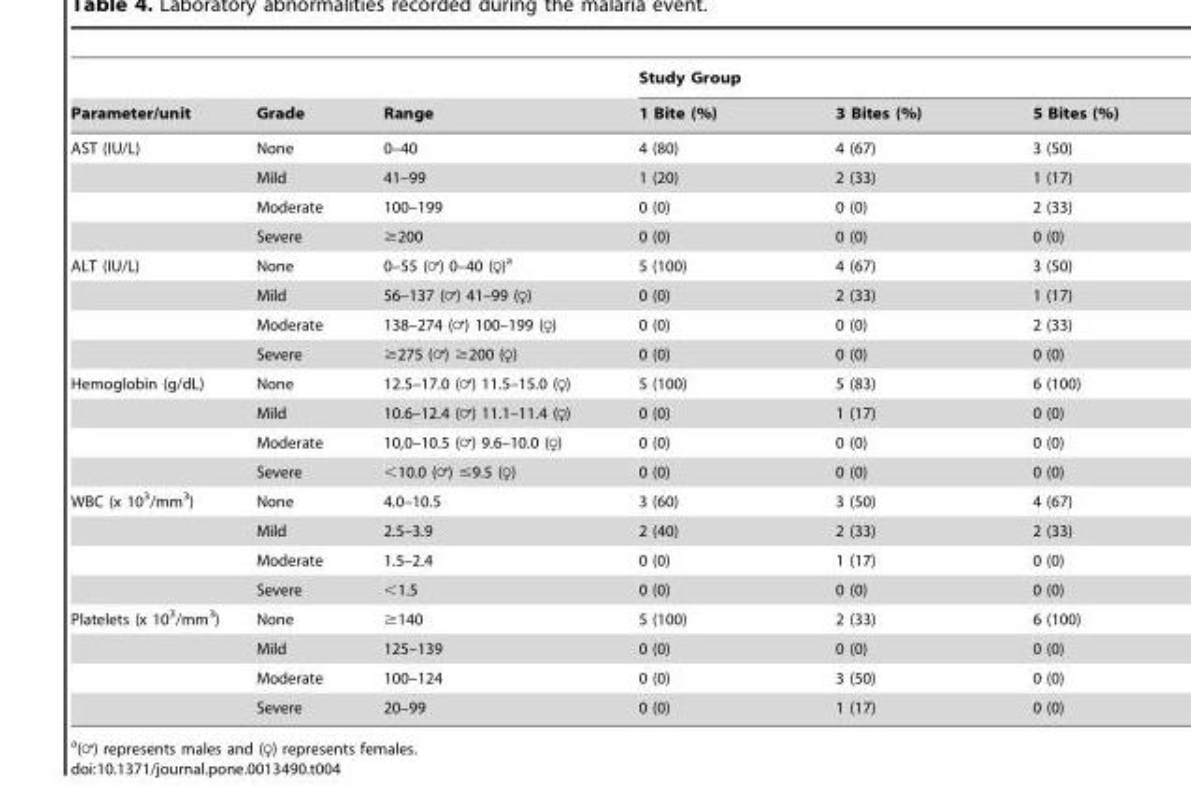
<table><thead><tr><td rowspan="2">Parameter/unit</td><td rowspan="2">Grade</td><td rowspan="2">Range</td><td colspan="3">Study Group</td></tr><tr><td>1 Bite (%)</td><td>3 Bites (%)</td><td>5 Bites (%)</td></tr></thead><tbody><tr><td rowspan="4">AST (IU/L)</td><td>None</td><td>0–40</td><td>4 (80)</td><td>4 (67)</td><td>3 (50)</td></tr><tr><td>Mild</td><td>41–99</td><td>1 (20)</td><td>2 (33)</td><td>1 (17)</td></tr><tr><td>Moderate</td><td>100–199</td><td>0 (0)</td><td>0 (0)</td><td>2 (33)</td></tr><tr><td>Severe</td><td>≥200</td><td>0 (0)</td><td>0 (0)</td><td>0 (0)</td></tr><tr><td rowspan="4">ALT (IU/L)</td><td>None</td><td>0–55 (=) 0–40 (R)a</td><td>5 (100)</td><td>4 (67)</td><td>3 (50)</td></tr><tr><td>Mild</td><td>56–137 (=) 41–99 (R)</td><td>0 (0)</td><td>2 (33)</td><td>1 (17)</td></tr><tr><td>Moderate</td><td>138–274 (=) 100–199 (R)</td><td>0 (0)</td><td>0 (0)</td><td>2 (33)</td></tr><tr><td>Severe</td><td>$275 (=) $200 (R)</td><td>0 (0)</td><td>0 (0)</td><td>0 (0)</td></tr><tr><td rowspan="4">Hemoglobin (g/dL)</td><td>None</td><td>12.5–17.0 (=) 11.5–15.0 (R)</td><td>5 (100)</td><td>5 (83)</td><td>6 (100)</td></tr><tr><td>Mild</td><td>10.6–12.4 (=) 11.1–11.4 (R)</td><td>0 (0)</td><td>1 (17)</td><td>0 (0)</td></tr><tr><td>Moderate</td><td>10,0–10.5 (=) 9.6–10.0 (R)</td><td>0 (0)</td><td>0 (0)</td><td>0 (0)</td></tr><tr><td>Severe</td><td>,10.0 (=) #9.5 (R)</td><td>0 (0)</td><td>0 (0)</td><td>0 (0)</td></tr><tr><td rowspan="4">WBC (x 10<sup>3</sup>/mm<sup>3</sup>)</td><td>None</td><td>4.0–10.5</td><td>3 (60)</td><td>3 (50)</td><td>4 (67)</td></tr><tr><td>Mild</td><td>2.5–3.9</td><td>2 (40)</td><td>2 (33)</td><td>2 (33)</td></tr><tr><td>Moderate</td><td>1.5–2.4</td><td>0 (0)</td><td>1 (17)</td><td>0 (0)</td></tr><tr><td>Severe</td><td>&lt;1.5</td><td>0 (0)</td><td>0 (0)</td><td>0 (0)</td></tr><tr><td rowspan="4">Platelets (x 10<sup>3</sup>/mm<sup>3</sup>)</td><td>None</td><td>≥140</td><td>5 (100)</td><td>2 (33)</td><td>6 (100)</td></tr><tr><td>Mild</td><td>125–139</td><td>0 (0)</td><td>0 (0)</td><td>0 (0)</td></tr><tr><td>Moderate</td><td>100–124</td><td>0 (0)</td><td>3 (50)</td><td>0 (0)</td></tr><tr><td>Severe</td><td>20–99</td><td>0 (0)</td><td>1 (17)</td><td>0 (0)</td></tr></tbody></table>